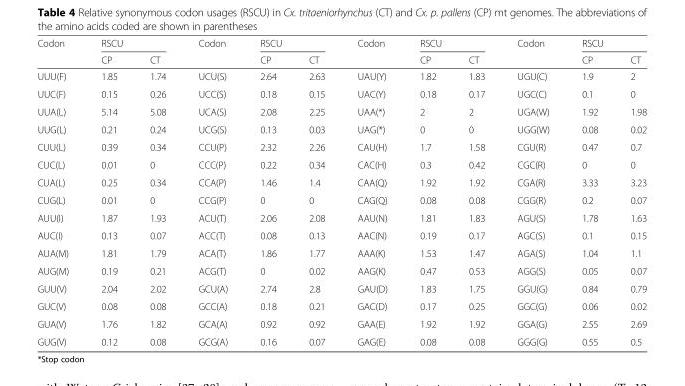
<table><thead><tr><td rowspan="2">Codon</td><td colspan="2">RSCU</td><td rowspan="2">Codon</td><td colspan="2">RSCU</td><td rowspan="2">Codon</td><td colspan="2">RSCU</td><td rowspan="2">Codon</td><td colspan="2">RSCU</td></tr><tr><td>CP</td><td>CT</td><td>CP</td><td>CT</td><td>CP</td><td>CT</td><td>CP</td><td>CT</td></tr></thead><tbody><tr><td>UUU(F)</td><td>1.85</td><td>1.74</td><td>UCU(S)</td><td>2.64</td><td>2.63</td><td>UAU(Y)</td><td>1.82</td><td>1.83</td><td>UGU(C)</td><td>1.9</td><td>2</td></tr><tr><td>UUC(F)</td><td>0.15</td><td>0.26</td><td>UCC(S)</td><td>0.18</td><td>0.15</td><td>UAC(Y)</td><td>0.18</td><td>0.17</td><td>UGC(C)</td><td>0.1</td><td>0</td></tr><tr><td>UUA(L)</td><td>5.14</td><td>5.08</td><td>UCA(S)</td><td>2.08</td><td>2.25</td><td>UAA(*)</td><td>2</td><td>2</td><td>UGA(W)</td><td>1.92</td><td>1.98</td></tr><tr><td>UUG(L)</td><td>0.21</td><td>0.24</td><td>UCG(S)</td><td>0.13</td><td>0.03</td><td>UAG(*)</td><td>0</td><td>0</td><td>UGG(W)</td><td>0.08</td><td>0.02</td></tr><tr><td>CUU(L)</td><td>0.39</td><td>0.34</td><td>CCU(P)</td><td>2.32</td><td>2.26</td><td>CAU(H)</td><td>1.7</td><td>1.58</td><td>CGU(R)</td><td>0.47</td><td>0.7</td></tr><tr><td>CUC(L)</td><td>0.01</td><td>0</td><td>CCC(P)</td><td>0.22</td><td>0.34</td><td>CAC(H)</td><td>0.3</td><td>0.42</td><td>CGC(R)</td><td>0</td><td>0</td></tr><tr><td>CUA(L)</td><td>0.25</td><td>0.34</td><td>CCA(P)</td><td>1.46</td><td>1.4</td><td>CAA(Q)</td><td>1.92</td><td>1.92</td><td>CGA(R)</td><td>3.33</td><td>3.23</td></tr><tr><td>CUG(L)</td><td>0.01</td><td>0</td><td>CCG(P)</td><td>0</td><td>0</td><td>CAG(Q)</td><td>0.08</td><td>0.08</td><td>CGG(R)</td><td>0.2</td><td>0.07</td></tr><tr><td>AUU(I)</td><td>1.87</td><td>1.93</td><td>ACU(T)</td><td>2.06</td><td>2.08</td><td>AAU(N)</td><td>1.81</td><td>1.83</td><td>AGU(S)</td><td>1.78</td><td>1.63</td></tr><tr><td>AUC(I)</td><td>0.13</td><td>0.07</td><td>ACC(T)</td><td>0.08</td><td>0.13</td><td>AAC(N)</td><td>0.19</td><td>0.17</td><td>AGC(S)</td><td>0.1</td><td>0.15</td></tr><tr><td>AUA(M)</td><td>1.81</td><td>1.79</td><td>ACA(T)</td><td>1.86</td><td>1.77</td><td>AAA(K)</td><td>1.53</td><td>1.47</td><td>AGA(S)</td><td>1.04</td><td>1.1</td></tr><tr><td>AUG(M)</td><td>0.19</td><td>0.21</td><td>ACG(T)</td><td>0</td><td>0.02</td><td>AAG(K)</td><td>0.47</td><td>0.53</td><td>AGG(S)</td><td>0.05</td><td>0.07</td></tr><tr><td>GUU(V)</td><td>2.04</td><td>2.02</td><td>GCU(A)</td><td>2.74</td><td>2.8</td><td>GAU(D)</td><td>1.83</td><td>1.75</td><td>GGU(G)</td><td>0.84</td><td>0.79</td></tr><tr><td>GUC(V)</td><td>0.08</td><td>0.08</td><td>GCC(A)</td><td>0.18</td><td>0.21</td><td>GAC(D)</td><td>0.17</td><td>0.25</td><td>GGC(G)</td><td>0.06</td><td>0.02</td></tr><tr><td>GUA(V)</td><td>1.76</td><td>1.82</td><td>GCA(A)</td><td>0.92</td><td>0.92</td><td>GAA(E)</td><td>1.92</td><td>1.92</td><td>GGA(G)</td><td>2.55</td><td>2.69</td></tr><tr><td>GUG(V)</td><td>0.12</td><td>0.08</td><td>GCG(A)</td><td>0.16</td><td>0.07</td><td>GAG(E)</td><td>0.08</td><td>0.08</td><td>GGG(G)</td><td>0.55</td><td>0.5</td></tr></tbody></table>